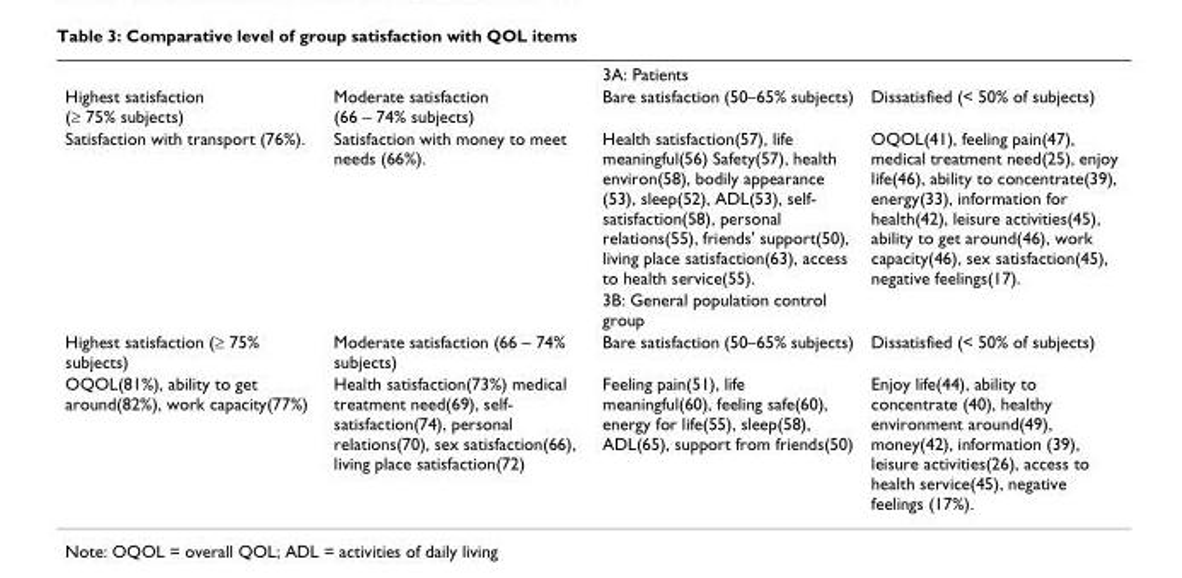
<table><thead><tr><td></td><td></td><td>3A: Patients</td><td></td></tr></thead><tbody><tr><td>Highest satisfaction (≥ 75% subjects)</td><td>Moderate satisfaction (66 – 74% subjects)</td><td>Bare satisfaction (50–65% subjects)</td><td>Dissatisfied (&lt; 50% of subjects)</td></tr><tr><td rowspan="2">Satisfaction with transport (76%).</td><td>Satisfaction with money to meet needs (66%).</td><td>Health satisfaction(57), life meaningful(56) Safety(57), health environ(58), bodily appearance (53), sleep(52), ADL(53), self- satisfaction(58), personal relations(55), friends&#x27; support(50), living place satisfaction(63), access to health service(55).</td><td>OQOL(41), feeling pain(47), medical treatment need(25), enjoy life(46), ability to concentrate(39), energy(33), information for health(42), leisure activities(45), ability to get around(46), work capacity(46), sex satisfaction(45), negative feelings(17).</td></tr><tr><td></td><td>3B: General population control group</td><td></td></tr><tr><td>Highest satisfaction (≥ 75% subjects)</td><td>Moderate satisfaction (66 – 74% subjects)</td><td>Bare satisfaction (50–65% subjects)</td><td>Dissatisfied (&lt; 50% of subjects)</td></tr><tr><td>OQOL(81%), ability to get around(82%), work capacity(77%)</td><td>Health satisfaction(73%) medical treatment need(69), self- satisfaction(74), personal relations(70), sex satisfaction(66), living place satisfaction(72)</td><td>Feeling pain(51), life meaningful(60), feeling safe(60), energy for life(55), sleep(58), ADL(65), support from friends(50)</td><td>Enjoy life(44), ability to concentrate (40), healthy environment around(49), money(42), information (39), leisure activities(26), access to health service(45), negative feelings (17%).</td></tr></tbody></table>